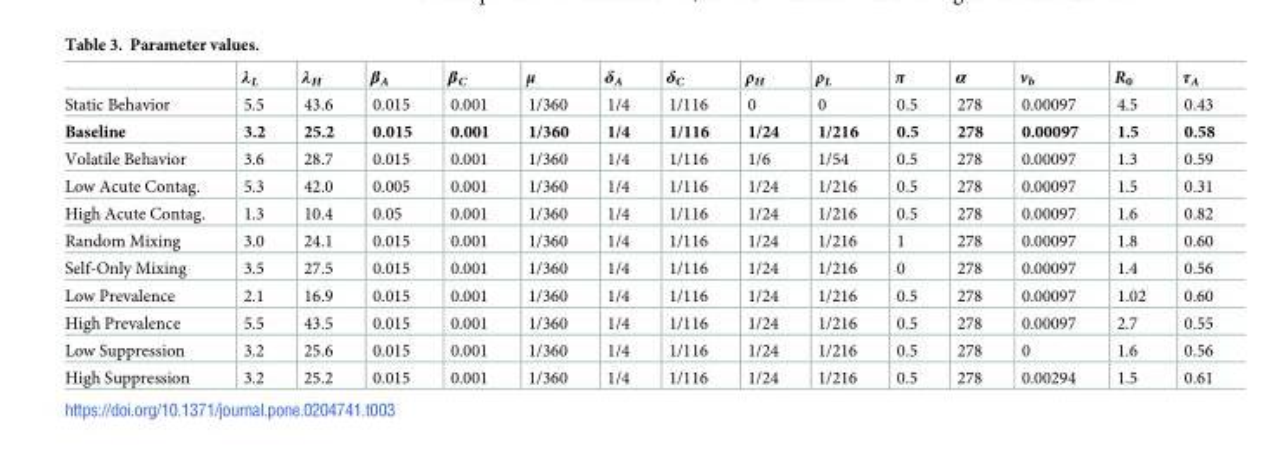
<table><thead><tr><td></td><td>λ<sub>L</sub></td><td>λ<sub>H</sub></td><td>β<sub>A</sub></td><td>β<sub>C</sub></td><td>μ</td><td>δ<sub>A</sub></td><td>δ<sub>C</sub></td><td>ρ<sub>H</sub></td><td>ρ<sub>L</sub></td><td>π</td><td>α</td><td>v<sub>b</sub></td><td>R<sub>0</sub></td><td>τ<sub>A</sub></td></tr></thead><tbody><tr><td>Static Behavior</td><td>5.5</td><td>43.6</td><td>0.015</td><td>0.001</td><td>1/360</td><td>1/4</td><td>1/116</td><td>0</td><td>0</td><td>0.5</td><td>278</td><td>0.00097</td><td>4.5</td><td>0.43</td></tr><tr><td>Baseline</td><td>3.2</td><td>25.2</td><td>0.015</td><td>0.001</td><td>1/360</td><td>1/4</td><td>1/116</td><td>1/24</td><td>1/216</td><td>0.5</td><td>278</td><td>0.00097</td><td>1.5</td><td>0.58</td></tr><tr><td>Volatile Behavior</td><td>3.6</td><td>28.7</td><td>0.015</td><td>0.001</td><td>1/360</td><td>1/4</td><td>1/116</td><td>1/6</td><td>1/54</td><td>0.5</td><td>278</td><td>0.00097</td><td>1.3</td><td>0.59</td></tr><tr><td>Low Acute Contag.</td><td>5.3</td><td>42.0</td><td>0.005</td><td>0.001</td><td>1/360</td><td>1/4</td><td>1/116</td><td>1/24</td><td>1/216</td><td>0.5</td><td>278</td><td>0.00097</td><td>1.5</td><td>0.31</td></tr><tr><td>High Acute Contag.</td><td>1.3</td><td>10.4</td><td>0.05</td><td>0.001</td><td>1/360</td><td>1/4</td><td>1/116</td><td>1/24</td><td>1/216</td><td>0.5</td><td>278</td><td>0.00097</td><td>1.6</td><td>0.82</td></tr><tr><td>Random Mixing</td><td>3.0</td><td>24.1</td><td>0.015</td><td>0.001</td><td>1/360</td><td>1/4</td><td>1/116</td><td>1/24</td><td>1/216</td><td>1</td><td>278</td><td>0.00097</td><td>1.8</td><td>0.60</td></tr><tr><td>Self-Only Mixing</td><td>3.5</td><td>27.5</td><td>0.015</td><td>0.001</td><td>1/360</td><td>1/4</td><td>1/116</td><td>1/24</td><td>1/216</td><td>0</td><td>278</td><td>0.00097</td><td>1.4</td><td>0.56</td></tr><tr><td>Low Prevalence</td><td>2.1</td><td>16.9</td><td>0.015</td><td>0.001</td><td>1/360</td><td>1/4</td><td>1/116</td><td>1/24</td><td>1/216</td><td>0.5</td><td>278</td><td>0.00097</td><td>1.02</td><td>0.60</td></tr><tr><td>High Prevalence</td><td>5.5</td><td>43.5</td><td>0.015</td><td>0.001</td><td>1/360</td><td>1/4</td><td>1/116</td><td>1/24</td><td>1/216</td><td>0.5</td><td>278</td><td>0.00097</td><td>2.7</td><td>0.55</td></tr><tr><td>Low Suppression</td><td>3.2</td><td>25.6</td><td>0.015</td><td>0.001</td><td>1/360</td><td>1/4</td><td>1/116</td><td>1/24</td><td>1/216</td><td>0.5</td><td>278</td><td>0</td><td>1.6</td><td>0.56</td></tr><tr><td>High Suppression</td><td>3.2</td><td>25.2</td><td>0.015</td><td>0.001</td><td>1/360</td><td>1/4</td><td>1/116</td><td>1/24</td><td>1/216</td><td>0.5</td><td>278</td><td>0.00294</td><td>1.5</td><td>0.61</td></tr></tbody></table>